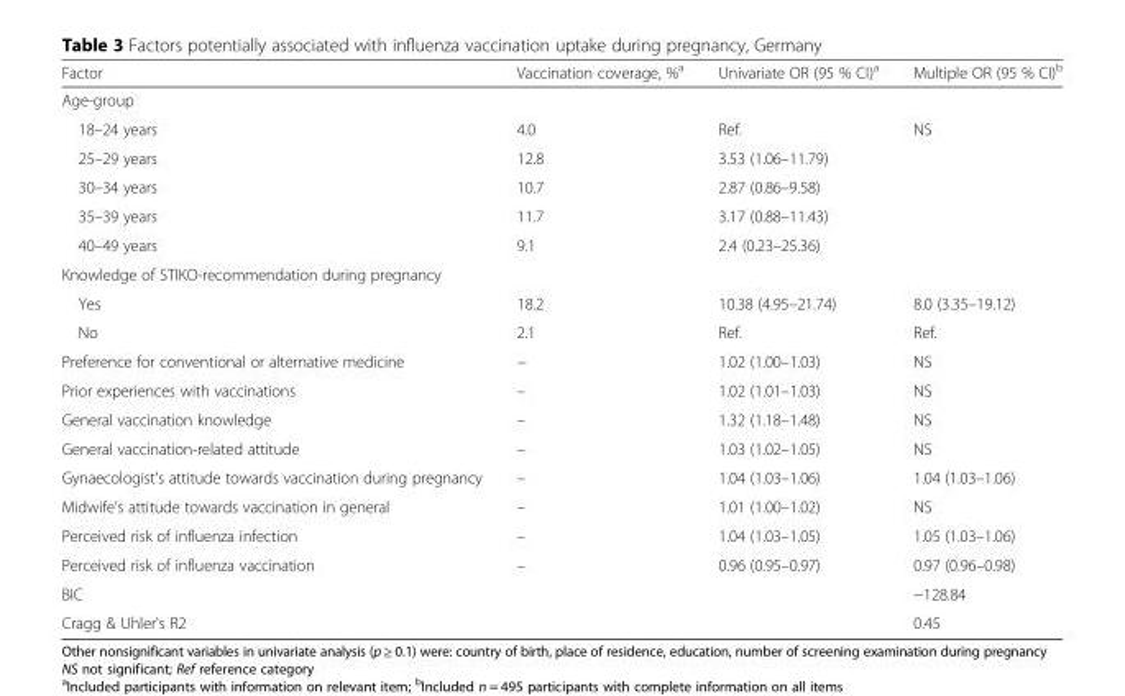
<table><thead><tr><td>Factor</td><td>Vaccination coverage, %<sup>a</sup></td><td>Univariate OR (95 % CI)<sup>a</sup></td><td>Multiple OR (95 % CI)<sup>b</sup></td></tr></thead><tbody><tr><td colspan="4">Age-group</td></tr><tr><td>18–24 years</td><td>4.0</td><td>Ref.</td><td rowspan="5">NS</td></tr><tr><td>25–29 years</td><td>12.8</td><td>3.53 (1.06–11.79)</td></tr><tr><td>30–34 years</td><td>10.7</td><td>2.87 (0.86–9.58)</td></tr><tr><td>35–39 years</td><td>11.7</td><td>3.17 (0.88–11.43)</td></tr><tr><td>40–49 years</td><td>9.1</td><td>2.4 (0.23–25.36)</td></tr><tr><td colspan="4">Knowledge of STIKO-recommendation during pregnancy</td></tr><tr><td>Yes</td><td>18.2</td><td>10.38 (4.95–21.74)</td><td>8.0 (3.35–19.12)</td></tr><tr><td>No</td><td>2.1</td><td>Ref.</td><td>Ref.</td></tr><tr><td>Preference for conventional or alternative medicine</td><td>−</td><td>1.02 (1.00–1.03)</td><td>NS</td></tr><tr><td>Prior experiences with vaccinations</td><td>–</td><td>1.02 (1.01–1.03)</td><td>NS</td></tr><tr><td>General vaccination knowledge</td><td>–</td><td>1.32 (1.18–1.48)</td><td>NS</td></tr><tr><td>General vaccination-related attitude</td><td>–</td><td>1.03 (1.02–1.05)</td><td>NS</td></tr><tr><td>Gynaecologist’s attitude towards vaccination during pregnancy</td><td>–</td><td>1.04 (1.03–1.06)</td><td>1.04 (1.03–1.06)</td></tr><tr><td>Midwife’s attitude towards vaccination in general</td><td>–</td><td>1.01 (1.00–1.02)</td><td>NS</td></tr><tr><td>Perceived risk of influenza infection</td><td>–</td><td>1.04 (1.03–1.05)</td><td>1.05 (1.03–1.06)</td></tr><tr><td>Perceived risk of influenza vaccination</td><td>–</td><td>0.96 (0.95–0.97)</td><td>0.97 (0.96–0.98)</td></tr><tr><td>BIC</td><td></td><td></td><td>−128.84</td></tr><tr><td>Cragg &amp; Uhler&#x27;s R2</td><td></td><td></td><td>0.45</td></tr></tbody></table>